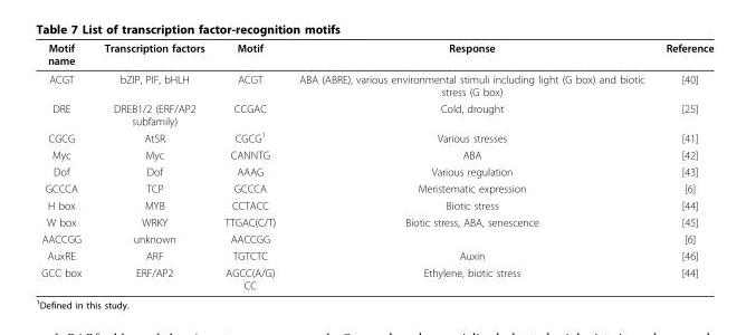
<table><thead><tr><td>Motif name</td><td>Transcription factors</td><td>Motif</td><td>Response</td><td>Reference</td></tr></thead><tbody><tr><td>ACGT</td><td>bZIP, PIF, bHLH</td><td>ACGT</td><td>ABA (ABRE), various environmental stimuli including light (G box) and biotic stress (G box)</td><td>[40]</td></tr><tr><td>DRE</td><td>DREB1/2 (ERF/AP2 subfamily)</td><td>CCGAC</td><td>Cold, drought</td><td>[25]</td></tr><tr><td>CGCG</td><td>AtSR</td><td>CGCG<sup>1</sup></td><td>Various stresses</td><td>[41]</td></tr><tr><td>Myc</td><td>Myc</td><td>CANNTG</td><td>ABA</td><td>[42]</td></tr><tr><td>Dof</td><td>Dof</td><td>AAAG</td><td>Various regulation</td><td>[43]</td></tr><tr><td>GCCCA</td><td>TCP</td><td>GCCCA</td><td>Meristematic expression</td><td>[6]</td></tr><tr><td>H box</td><td>MYB</td><td>CCTACC</td><td>Biotic stress</td><td>[44]</td></tr><tr><td>W box</td><td>WRKY</td><td>TTGAC(C/T)</td><td>Biotic stress, ABA, senescence</td><td>[45]</td></tr><tr><td>AACCGG</td><td>unknown</td><td>AACCGG</td><td></td><td>[6]</td></tr><tr><td>AuxRE</td><td>ARF</td><td>TGTCTC</td><td>Auxin</td><td>[46]</td></tr><tr><td>GCC box</td><td>ERF/AP2</td><td>AGCC(A/G) CC</td><td>Ethylene, biotic stress</td><td>[44]</td></tr></tbody></table>